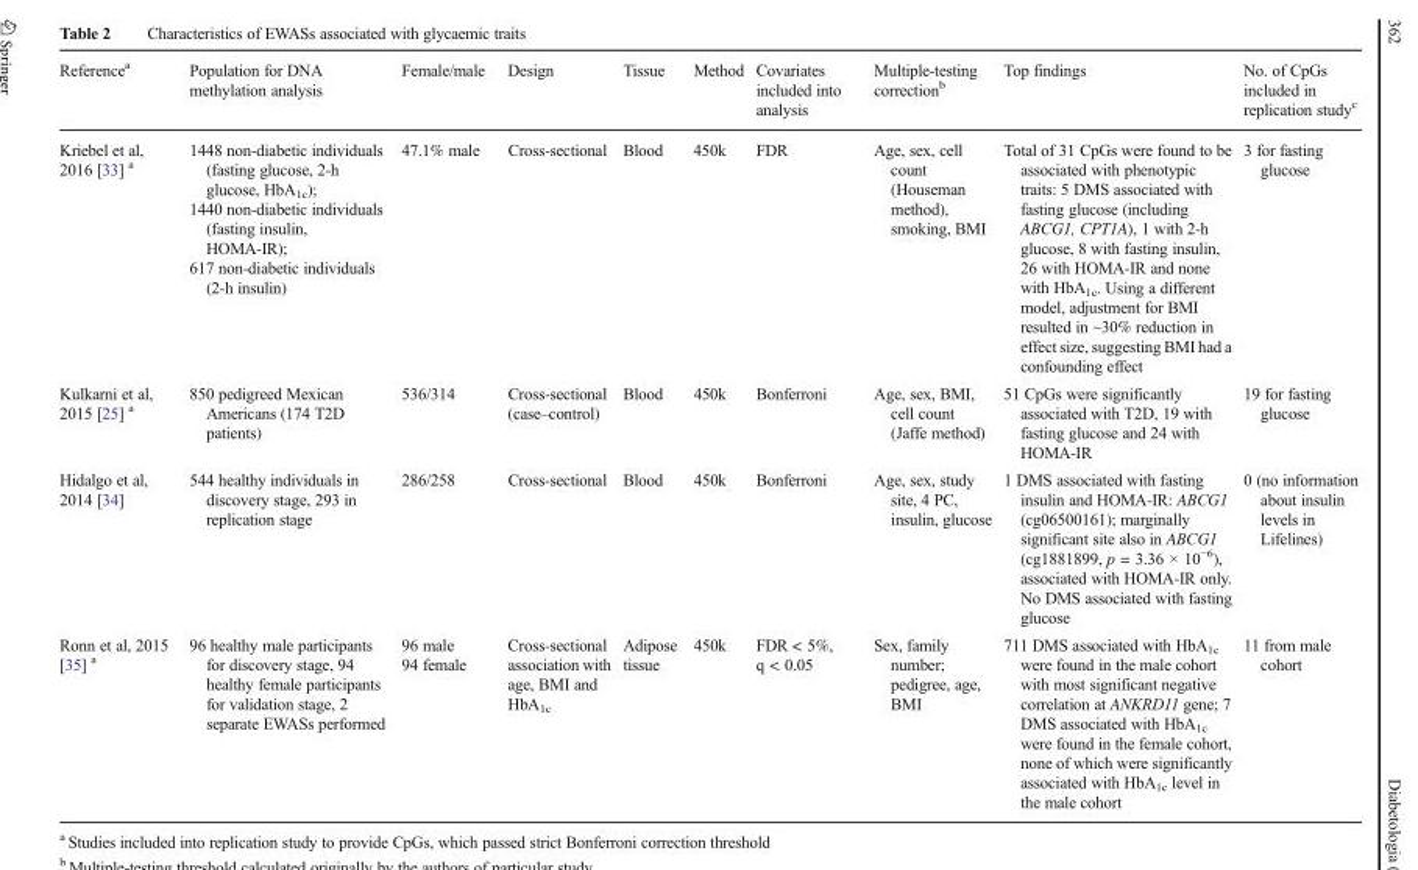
<table><thead><tr><td>Reference<sup>a</sup></td><td>Population for DNA methylation analysis</td><td>Female/male</td><td>Design</td><td>Tissue</td><td>Method</td><td>Covariates included into analysis</td><td>Multiple-testing correction<sup>b</sup></td><td>Top findings</td><td>No. of CpGs included in replication study<sup>c</sup></td></tr></thead><tbody><tr><td>Kriebel et al, 2016 [33] <sup>a</sup></td><td>1448 non-diabetic individuals (fasting glucose, 2-h glucose, HbA<sub>1c</sub>); 1440 non-diabetic individuals (fasting insulin, HOMA-IR); 617 non-diabetic individuals (2-h insulin)</td><td>47.1% male</td><td>Cross-sectional</td><td>Blood</td><td>450k</td><td>FDR</td><td>Age, sex, cell count (Houseman method), smoking, BMI</td><td>Total of 31 CpGs were found to be associated with phenotypic traits: 5 DMS associated with fasting glucose (including ABCG1, CPT1A), 1 with 2-h glucose, 8 with fasting insulin, 26 with HOMA-IR and none with HbA<sub>1c</sub>. Using a different model, adjustment for BMI resulted in ~30% reduction in effect size, suggesting BMI had a confounding effect</td><td>3 for fasting glucose</td></tr><tr><td>Kulkarni et al, 2015 [25] <sup>a</sup></td><td>850 pedigreed Mexican Americans (174 T2D patients)</td><td>536/314</td><td>Cross-sectional (case–control)</td><td>Blood</td><td>450k</td><td>Bonferroni</td><td>Age, sex, BMI, cell count (Jaffe method)</td><td>51 CpGs were significantly associated with T2D, 19 with fasting glucose and 24 with HOMA-IR</td><td>19 for fasting glucose</td></tr><tr><td>Hidalgo et al, 2014 [34]</td><td>544 healthy individuals in discovery stage, 293 in replication stage</td><td>286/258</td><td>Cross-sectional</td><td>Blood</td><td>450k</td><td>Bonferroni</td><td>Age, sex, study site, 4 PC, insulin, glucose</td><td>1 DMS associated with fasting insulin and HOMA-IR: ABCG1 (cg06500161); marginally significant site also in ABCG1 (cg1881899, p = 3.36 × 10<sup>−6</sup>), associated with HOMA-IR only. No DMS associated with fasting glucose</td><td>0 (no information about insulin levels in Lifelines)</td></tr><tr><td>Ronn et al, 2015 [35] <sup>a</sup></td><td>96 healthy male participants for discovery stage, 94 healthy female participants for validation stage, 2 separate EWASs performed</td><td>96 male 94 female</td><td>Cross-sectional association with age, BMI and HbA<sub>1c</sub></td><td>Adipose tissue</td><td>450k</td><td>FDR &lt; 5%, q &lt; 0.05</td><td>Sex, family number; pedigree, age, BMI</td><td>711 DMS associated with HbA<sub>1c</sub> were found in the male cohort with most significant negative correlation at ANKRD11 gene; 7 DMS associated with HbA<sub>1c</sub> were found in the female cohort, none of which were significantly associated with HbA<sub>1c</sub> level in the male cohort</td><td>11 from male cohort</td></tr></tbody></table>